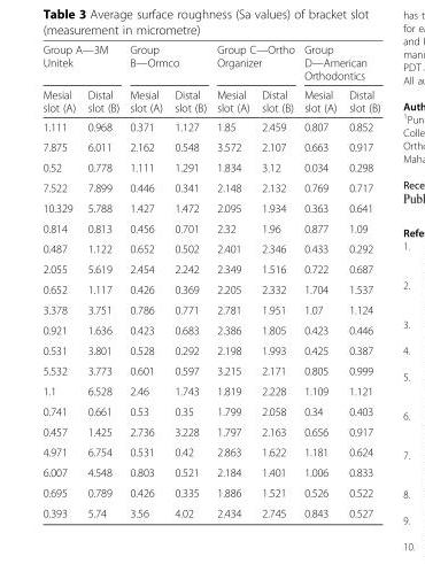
<table><thead><tr><td colspan="2">Group A—3M Unitek</td><td colspan="2">Group B—Ormco</td><td colspan="2">Group C—Ortho Organizer</td><td colspan="2">Group D—American Orthodontics</td></tr><tr><td>Mesial slot (A)</td><td>Distal slot (B)</td><td>Mesial slot (A)</td><td>Distal slot (B)</td><td>Mesial slot (A)</td><td>Distal slot (B)</td><td>Mesial slot (A)</td><td>Distal slot (B)</td></tr></thead><tbody><tr><td>1.111</td><td>0.968</td><td>0.371</td><td>1.127</td><td>1.85</td><td>2.459</td><td>0.807</td><td>0.852</td></tr><tr><td>7.875</td><td>6.011</td><td>2.162</td><td>0.548</td><td>3.572</td><td>2.107</td><td>0.663</td><td>0.917</td></tr><tr><td>0.52</td><td>0.778</td><td>1.111</td><td>1.291</td><td>1.834</td><td>3.12</td><td>0.034</td><td>0.298</td></tr><tr><td>7.522</td><td>7.899</td><td>0.446</td><td>0.341</td><td>2.148</td><td>2.132</td><td>0.769</td><td>0.717</td></tr><tr><td>10.329</td><td>5.788</td><td>1.427</td><td>1.472</td><td>2.095</td><td>1.934</td><td>0.363</td><td>0.641</td></tr><tr><td>0.814</td><td>0.813</td><td>0.456</td><td>0.701</td><td>2.32</td><td>1.96</td><td>0.877</td><td>1.09</td></tr><tr><td>0.487</td><td>1.122</td><td>0.652</td><td>0.502</td><td>2.401</td><td>2.346</td><td>0.433</td><td>0.292</td></tr><tr><td>2.055</td><td>5.619</td><td>2.454</td><td>2.242</td><td>2.349</td><td>1.516</td><td>0.722</td><td>0.687</td></tr><tr><td>0.652</td><td>1.117</td><td>0.426</td><td>0.369</td><td>2.205</td><td>2.332</td><td>1.704</td><td>1.537</td></tr><tr><td>3.378</td><td>3.751</td><td>0.786</td><td>0.771</td><td>2.781</td><td>1.951</td><td>1.07</td><td>1.124</td></tr><tr><td>0.921</td><td>1.636</td><td>0.423</td><td>0.683</td><td>2.386</td><td>1.805</td><td>0.423</td><td>0.446</td></tr><tr><td>0.531</td><td>3.801</td><td>0.528</td><td>0.292</td><td>2.198</td><td>1.993</td><td>0.425</td><td>0.387</td></tr><tr><td>5.532</td><td>3.773</td><td>0.601</td><td>0.597</td><td>3.215</td><td>2.171</td><td>0.805</td><td>0.999</td></tr><tr><td>1.1</td><td>6.528</td><td>2.46</td><td>1.743</td><td>1.819</td><td>2.228</td><td>1.109</td><td>1.121</td></tr><tr><td>0.741</td><td>0.661</td><td>0.53</td><td>0.35</td><td>1.799</td><td>2.058</td><td>0.34</td><td>0.403</td></tr><tr><td>0.457</td><td>1.425</td><td>2.736</td><td>3.228</td><td>1.797</td><td>2.163</td><td>0.656</td><td>0.917</td></tr><tr><td>4.971</td><td>6.754</td><td>0.531</td><td>0.42</td><td>2.863</td><td>1.622</td><td>1.181</td><td>0.624</td></tr><tr><td>6.007</td><td>4.548</td><td>0.803</td><td>0.521</td><td>2.184</td><td>1.401</td><td>1.006</td><td>0.833</td></tr><tr><td>0.695</td><td>0.789</td><td>0.426</td><td>0.335</td><td>1.886</td><td>1.521</td><td>0.526</td><td>0.522</td></tr><tr><td>0.393</td><td>5.74</td><td>3.56</td><td>4.02</td><td>2.434</td><td>2.745</td><td>0.843</td><td>0.527</td></tr></tbody></table>